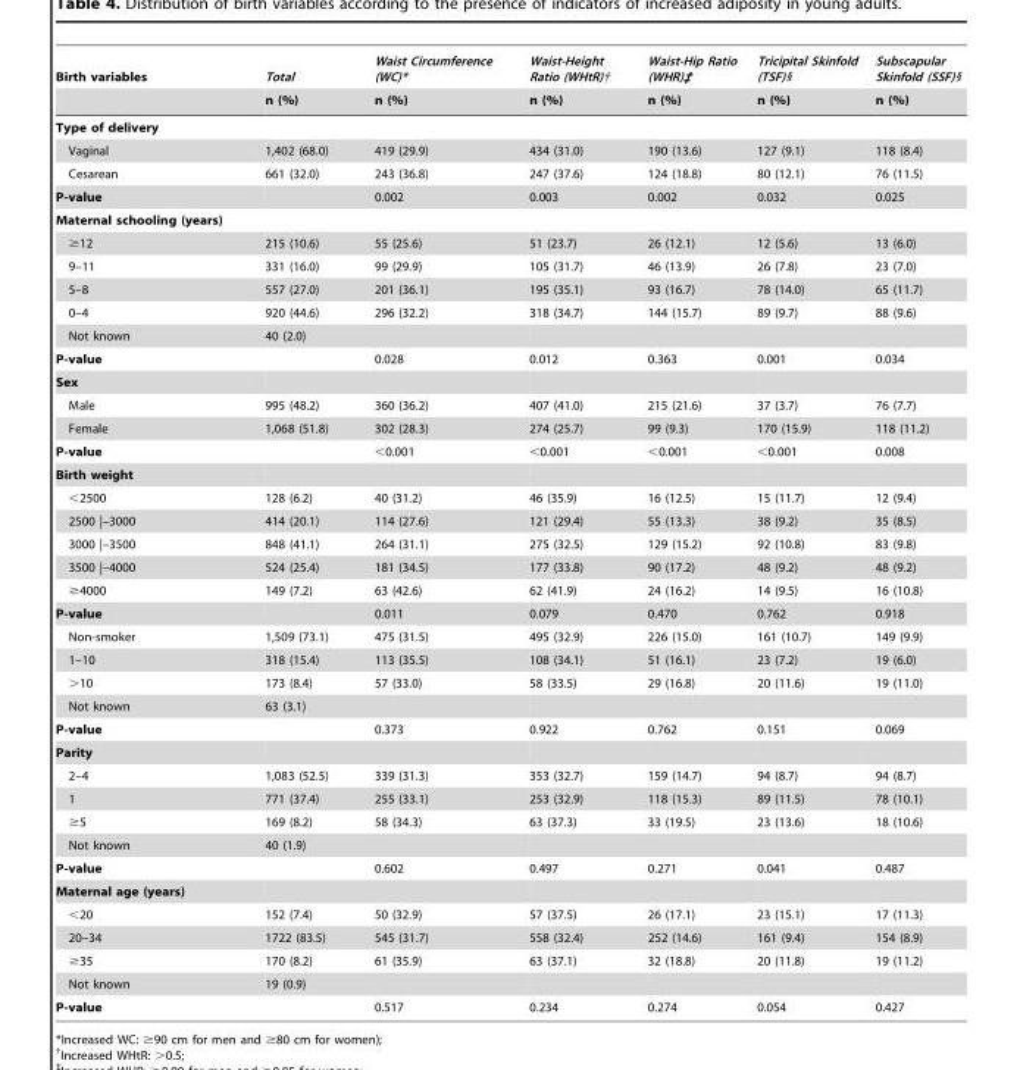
<table><thead><tr><td rowspan="2">Birth variables</td><td rowspan="2">Total n (%)</td><td rowspan="2">Waist Circumference (WC)* n (%)</td><td rowspan="2">Waist-Height Ratio (WHtR)† n (%)</td><td rowspan="2">Waist-Hip Ratio (WHR)‡ n (%)</td><td rowspan="2">Tricipital Skinfold (TSF)§ n (%)</td><td rowspan="2">Subscapular Skinfold (SSF)§ n (%)</td></tr><tr></tr></thead><tbody><tr><td colspan="7">Type of delivery</td></tr><tr><td>Vaginal</td><td>1,402 (68.0)</td><td>419 (29.9)</td><td>434 (31.0)</td><td>190 (13.6)</td><td>127 (9.1)</td><td>118 (8.4)</td></tr><tr><td>Cesarean</td><td>661 (32.0)</td><td>243 (36.8)</td><td>247 (37.6)</td><td>124 (18.8)</td><td>80 (12.1)</td><td>76 (11.5)</td></tr><tr><td>P-value</td><td></td><td>0.002</td><td>0.003</td><td>0.002</td><td>0.032</td><td>0.025</td></tr><tr><td colspan="7">Maternal schooling (years)</td></tr><tr><td>≥12</td><td>215 (10.6)</td><td>55 (25.6)</td><td>51 (23.7)</td><td>26 (12.1)</td><td>12 (5.6)</td><td>13 (6.0)</td></tr><tr><td>9–11</td><td>331 (16.0)</td><td>99 (29.9)</td><td>105 (31.7)</td><td>46 (13.9)</td><td>26 (7.8)</td><td>23 (7.0)</td></tr><tr><td>5–8</td><td>557 (27.0)</td><td>201 (36.1)</td><td>195 (35.1)</td><td>93 (16.7)</td><td>78 (14.0)</td><td>65 (11.7)</td></tr><tr><td>0–4</td><td>920 (44.6)</td><td>296 (32.2)</td><td>318 (34.7)</td><td>144 (15.7)</td><td>89 (9.7)</td><td>88 (9.6)</td></tr><tr><td>Not known</td><td>40 (2.0)</td><td></td><td></td><td></td><td></td><td></td></tr><tr><td>P-value</td><td></td><td>0.028</td><td>0.012</td><td>0.363</td><td>0.001</td><td>0.034</td></tr><tr><td colspan="7">Sex</td></tr><tr><td>Male</td><td>995 (48.2)</td><td>360 (36.2)</td><td>407 (41.0)</td><td>215 (21.6)</td><td>37 (3.7)</td><td>76 (7.7)</td></tr><tr><td>Female</td><td>1,068 (51.8)</td><td>302 (28.3)</td><td>274 (25.7)</td><td>99 (9.3)</td><td>170 (15.9)</td><td>118 (11.2)</td></tr><tr><td>P-value</td><td></td><td>&lt;0.001</td><td>&lt;0.001</td><td>&lt;0.001</td><td>&lt;0.001</td><td>0.008</td></tr><tr><td colspan="7">Birth weight</td></tr><tr><td>&lt;2500</td><td>128 (6.2)</td><td>40 (31.2)</td><td>46 (35.9)</td><td>16 (12.5)</td><td>15 (11.7)</td><td>12 (9.4)</td></tr><tr><td>2500 |–3000</td><td>414 (20.1)</td><td>114 (27.6)</td><td>121 (29.4)</td><td>55 (13.3)</td><td>38 (9.2)</td><td>35 (8.5)</td></tr><tr><td>3000 |–3500</td><td>848 (41.1)</td><td>264 (31.1)</td><td>275 (32.5)</td><td>129 (15.2)</td><td>92 (10.8)</td><td>83 (9.8)</td></tr><tr><td>3500 |–4000</td><td>524 (25.4)</td><td>181 (34.5)</td><td>177 (33.8)</td><td>90 (17.2)</td><td>48 (9.2)</td><td>48 (9.2)</td></tr><tr><td>≥4000</td><td>149 (7.2)</td><td>63 (42.6)</td><td>62 (41.9)</td><td>24 (16.2)</td><td>14 (9.5)</td><td>16 (10.8)</td></tr><tr><td>P-value</td><td></td><td>0.011</td><td>0.079</td><td>0.470</td><td>0.762</td><td>0.918</td></tr><tr><td>Non-smoker</td><td>1,509 (73.1)</td><td>475 (31.5)</td><td>495 (32.9)</td><td>226 (15.0)</td><td>161 (10.7)</td><td>149 (9.9)</td></tr><tr><td>1–10</td><td>318 (15.4)</td><td>113 (35.5)</td><td>108 (34.1)</td><td>51 (16.1)</td><td>23 (7.2)</td><td>19 (6.0)</td></tr><tr><td>&gt;10</td><td>173 (8.4)</td><td>57 (33.0)</td><td>58 (33.5)</td><td>29 (16.8)</td><td>20 (11.6)</td><td>19 (11.0)</td></tr><tr><td>Not known</td><td>63 (3.1)</td><td></td><td></td><td></td><td></td><td></td></tr><tr><td>P-value</td><td></td><td>0.373</td><td>0.922</td><td>0.762</td><td>0.151</td><td>0.069</td></tr><tr><td colspan="7">Parity</td></tr><tr><td>2–4</td><td>1,083 (52.5)</td><td>339 (31.3)</td><td>353 (32.7)</td><td>159 (14.7)</td><td>94 (8.7)</td><td>94 (8.7)</td></tr><tr><td>1</td><td>771 (37.4)</td><td>255 (33.1)</td><td>253 (32.9)</td><td>118 (15.3)</td><td>89 (11.5)</td><td>78 (10.1)</td></tr><tr><td>≥5</td><td>169 (8.2)</td><td>58 (34.3)</td><td>63 (37.3)</td><td>33 (19.5)</td><td>23 (13.6)</td><td>18 (10.6)</td></tr><tr><td>Not known</td><td>40 (1.9)</td><td></td><td></td><td></td><td></td><td></td></tr><tr><td>P-value</td><td></td><td>0.602</td><td>0.497</td><td>0.271</td><td>0.041</td><td>0.487</td></tr><tr><td colspan="7">Maternal age (years)</td></tr><tr><td>&lt;20</td><td>152 (7.4)</td><td>50 (32.9)</td><td>57 (37.5)</td><td>26 (17.1)</td><td>23 (15.1)</td><td>17 (11.3)</td></tr><tr><td>20–34</td><td>1722 (83.5)</td><td>545 (31.7)</td><td>558 (32.4)</td><td>252 (14.6)</td><td>161 (9.4)</td><td>154 (8.9)</td></tr><tr><td>≥35</td><td>170 (8.2)</td><td>61 (35.9)</td><td>63 (37.1)</td><td>32 (18.8)</td><td>20 (11.8)</td><td>19 (11.2)</td></tr><tr><td>Not known</td><td>19 (0.9)</td><td></td><td></td><td></td><td></td><td></td></tr><tr><td>P-value</td><td></td><td>0.517</td><td>0.234</td><td>0.274</td><td>0.054</td><td>0.427</td></tr></tbody></table>